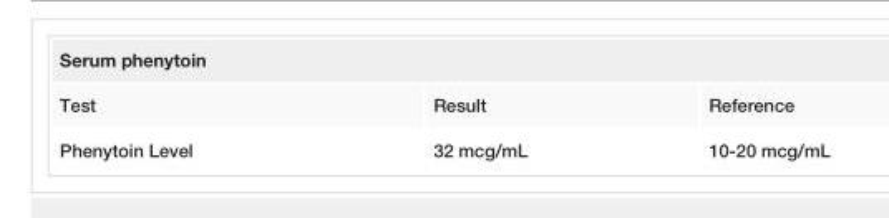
<table><tbody><tr><td colspan="3">Serum phenytoin</td></tr><tr><td>Test</td><td>Result</td><td>Reference</td></tr><tr><td>Phenytoin Level</td><td>32 mcg/mL</td><td>10-20 mcg/mL</td></tr></tbody></table>